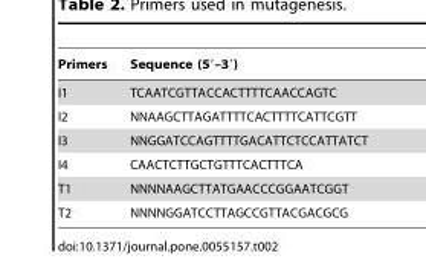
<table><thead><tr><td>Primers</td><td>Sequence (5′–3′)</td></tr></thead><tbody><tr><td>I1</td><td>TCAATCGTTACCACTTTTCAACCAGTC</td></tr><tr><td>I2</td><td>NNAAGCTTAGATTTTCACTTTTCATTCGTT</td></tr><tr><td>I3</td><td>NNGGATCCAGTTTTGACATTCTCCATTATCT</td></tr><tr><td>I4</td><td>CAACTCTTGCTGTTTCACTTTCA</td></tr><tr><td>T1</td><td>NNNNAAGCTTATGAACCCGGAATCGGT</td></tr><tr><td>T2</td><td>NNNNGGATCCTTAGCCGTTACGACGCG</td></tr></tbody></table>